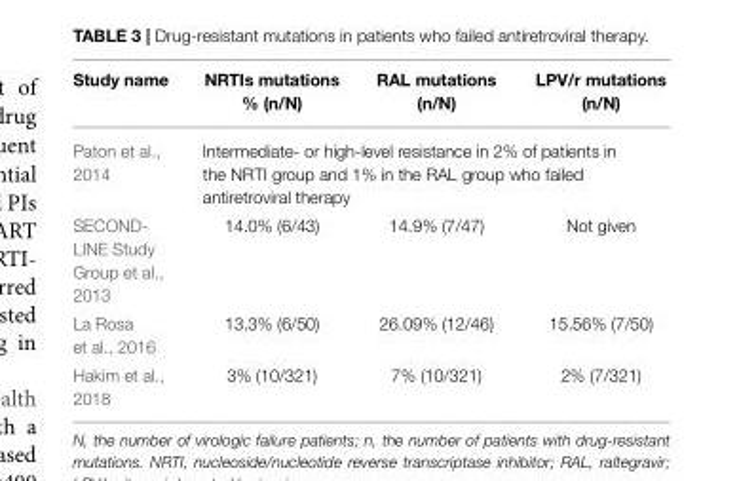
<table><thead><tr><td>Study name</td><td>NRTIs mutations % (n/N)</td><td>RAL mutations (n/N)</td><td>LPV/r mutations (n/N)</td></tr></thead><tbody><tr><td>Paton et al., 2014</td><td colspan="3">Intermediate- or high-level resistance in 2% of patients in the NRTI group and 1% in the RAL group who failed antiretroviral therapy</td></tr><tr><td>SECOND- LINE Study Group et al., 2013</td><td>14.0% (6/43)</td><td>14.9% (7/47)</td><td>Not given</td></tr><tr><td>La Rosa et al., 2016</td><td>13.3% (6/50)</td><td>26.09% (12/46)</td><td>15.56% (7/50)</td></tr><tr><td>Hakim et al., 2018</td><td>3% (10/321)</td><td>7% (10/321)</td><td>2% (7/321)</td></tr></tbody></table>